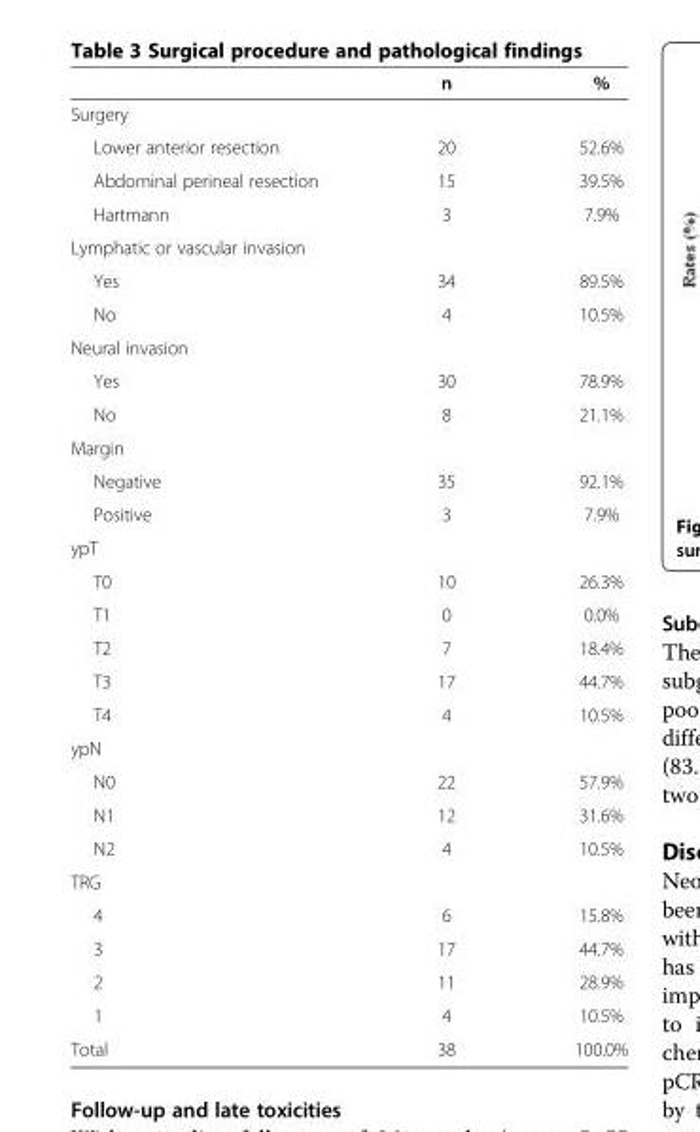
<table><thead><tr><td></td><td>n</td><td>%</td></tr></thead><tbody><tr><td colspan="3">Surgery</td></tr><tr><td>Lower anterior resection</td><td>20</td><td>52.6%</td></tr><tr><td>Abdominal perineal resection</td><td>15</td><td>39.5%</td></tr><tr><td>Hartmann</td><td>3</td><td>7.9%</td></tr><tr><td colspan="3">Lymphatic or vascular invasion</td></tr><tr><td>Yes</td><td>34</td><td>89.5%</td></tr><tr><td>No</td><td>4</td><td>10.5%</td></tr><tr><td colspan="3">Neural invasion</td></tr><tr><td>Yes</td><td>30</td><td>78.9%</td></tr><tr><td>No</td><td>8</td><td>21.1%</td></tr><tr><td colspan="3">Margin</td></tr><tr><td>Negative</td><td>35</td><td>92.1%</td></tr><tr><td>Positive</td><td>3</td><td>7.9%</td></tr><tr><td colspan="3">ypT</td></tr><tr><td>T0</td><td>10</td><td>26.3%</td></tr><tr><td>T1</td><td>0</td><td>0.0%</td></tr><tr><td>T2</td><td>7</td><td>18.4%</td></tr><tr><td>T3</td><td>17</td><td>44.7%</td></tr><tr><td>T4</td><td>4</td><td>10.5%</td></tr><tr><td colspan="3">ypN</td></tr><tr><td>N0</td><td>22</td><td>57.9%</td></tr><tr><td>N1</td><td>12</td><td>31.6%</td></tr><tr><td>N2</td><td>4</td><td>10.5%</td></tr><tr><td colspan="3">TRG</td></tr><tr><td>4</td><td>6</td><td>15.8%</td></tr><tr><td>3</td><td>17</td><td>44.7%</td></tr><tr><td>2</td><td>11</td><td>28.9%</td></tr><tr><td>1</td><td>4</td><td>10.5%</td></tr><tr><td>Total</td><td>38</td><td>100.0%</td></tr></tbody></table>